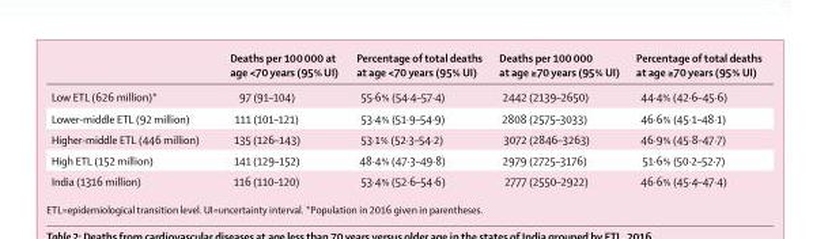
<table><thead><tr><td></td><td>Deaths per 100 000 at age &lt;70 years (95% UI)</td><td>Percentage of total deaths at age &lt;70 years (95% UI)</td><td>Deaths per 100 000 at age ≥70 years (95% UI)</td><td>Percentage of total deaths at age ≥70 years (95% UI)</td></tr></thead><tbody><tr><td>Low ETL (626 million)*</td><td>97 (91–104)</td><td>55·6% (54·4–57·4)</td><td>2442 (2139–2650)</td><td>44·4% (42·6–45·6)</td></tr><tr><td>Lower-middle ETL (92 million)</td><td>111 (101–121)</td><td>53·4% (51·9–54·9)</td><td>2808 (2575–3033)</td><td>46·6% (45·1–48·1)</td></tr><tr><td>Higher-middle ETL (446 million)</td><td>135 (126–143)</td><td>53·1% (52·3–54·2)</td><td>3072 (2846–3263)</td><td>46·9% (45·8–47·7)</td></tr><tr><td>High ETL (152 million)</td><td>141 (129–152)</td><td>48·4% (47·3–49·8)</td><td>2979 (2725–3176)</td><td>51·6% (50·2–52·7)</td></tr><tr><td>India (1316 million)</td><td>116 (110–120)</td><td>53·4% (52·6–54·6)</td><td>2777 (2550–2922)</td><td>46·6% (45·4–47·4)</td></tr></tbody></table>